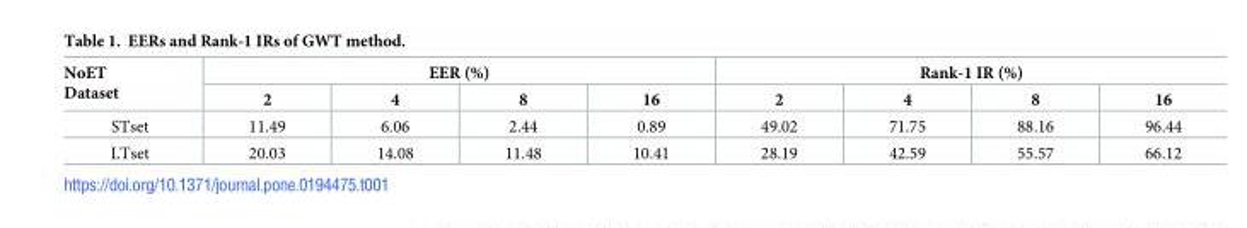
<table><thead><tr><td rowspan="2">NoET Dataset</td><td colspan="4">EER (%)</td><td colspan="4">Rank-1 IR (%)</td></tr><tr><td>2</td><td>4</td><td>8</td><td>16</td><td>2</td><td>4</td><td>8</td><td>16</td></tr></thead><tbody><tr><td>STset</td><td>11.49</td><td>6.06</td><td>2.44</td><td>0.89</td><td>49.02</td><td>71.75</td><td>88.16</td><td>96.44</td></tr><tr><td>LTset</td><td>20.03</td><td>14.08</td><td>11.48</td><td>10.41</td><td>28.19</td><td>42.59</td><td>55.57</td><td>66.12</td></tr></tbody></table>